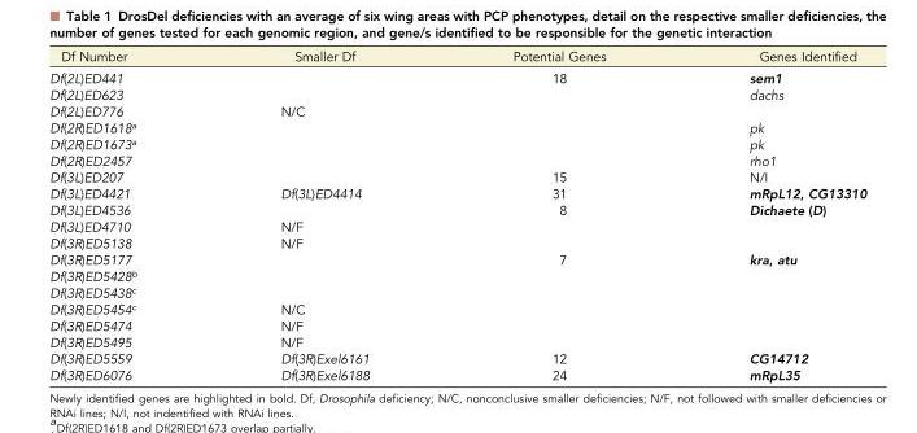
<table><thead><tr><td>Df Number</td><td>Smaller Df</td><td>Potential Genes</td><td>Genes Identified</td></tr></thead><tbody><tr><td>Df(2L)ED441</td><td></td><td>18</td><td>sem1</td></tr><tr><td>Df(2L)ED623</td><td></td><td></td><td>dachs</td></tr><tr><td>Df(2L)ED776</td><td>N/C</td><td></td><td></td></tr><tr><td>Df(2R)ED1618<sup>a</sup></td><td></td><td></td><td>pk</td></tr><tr><td>Df(2R)ED1673<sup>a</sup></td><td></td><td></td><td>pk</td></tr><tr><td>Df(2R)ED2457</td><td></td><td></td><td>rho1</td></tr><tr><td>Df(3L)ED207</td><td></td><td>15</td><td>N/I</td></tr><tr><td>Df(3L)ED4421</td><td>Df(3L)ED4414</td><td>31</td><td>mRpL12, CG13310</td></tr><tr><td>Df(3L)ED4536</td><td></td><td>8</td><td>Dichaete (D)</td></tr><tr><td>Df(3L)ED4710</td><td>N/F</td><td></td><td></td></tr><tr><td>Df(3R)ED5138</td><td>N/F</td><td></td><td></td></tr><tr><td>Df(3R)ED5177</td><td></td><td>7</td><td>kra, atu</td></tr><tr><td colspan="4">Df(3R)ED5428<sup>b</sup></td></tr><tr><td colspan="4">Df(3R)ED5438<sup>c</sup></td></tr><tr><td>Df(3R)ED5454<sup>c</sup></td><td>N/C</td><td></td><td></td></tr><tr><td>Df(3R)ED5474</td><td>N/F</td><td></td><td></td></tr><tr><td>Df(3R)ED5495</td><td>N/F</td><td></td><td></td></tr><tr><td>Df(3R)ED5559</td><td>Df(3R)Exel6161</td><td>12</td><td>CG14712</td></tr><tr><td>Df(3R)ED6076</td><td>Df(3R)Exel6188</td><td>24</td><td>mRpL35</td></tr></tbody></table>